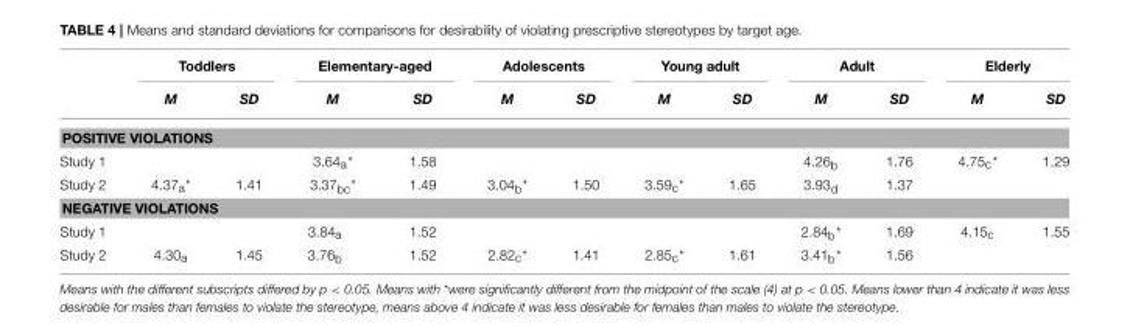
<table><thead><tr><td rowspan="2"></td><td colspan="2">Toddlers</td><td colspan="2">Elementary-aged</td><td colspan="2">Adolescents</td><td colspan="2">Young adult</td><td colspan="2">Adult</td><td colspan="2">Elderly</td></tr><tr><td>M</td><td>SD</td><td>M</td><td>SD</td><td>M</td><td>SD</td><td>M</td><td>SD</td><td>M</td><td>SD</td><td>M</td><td>SD</td></tr></thead><tbody><tr><td colspan="13">POSITIVE VIOLATIONS</td></tr><tr><td>Study 1</td><td></td><td></td><td>3.64<sub>a</sub>*</td><td>1.58</td><td></td><td></td><td></td><td></td><td>4.26<sub>b</sub></td><td>1.76</td><td>4.75<sub>c</sub>*</td><td>1.29</td></tr><tr><td>Study 2</td><td>4.37<sub>a</sub>*</td><td>1.41</td><td>3.37<sub>bc</sub>*</td><td>1.49</td><td>3.04<sub>b</sub>*</td><td>1.50</td><td>3.59<sub>c</sub>*</td><td>1.65</td><td>3.93<sub>d</sub></td><td>1.37</td><td></td><td></td></tr><tr><td colspan="13">NEGATIVE VIOLATIONS</td></tr><tr><td>Study 1</td><td></td><td></td><td>3.84<sub>a</sub></td><td>1.52</td><td></td><td></td><td></td><td></td><td>2.84<sub>b</sub>*</td><td>1.69</td><td>4.15<sub>c</sub></td><td>1.55</td></tr><tr><td>Study 2</td><td>4.30<sub>a</sub></td><td>1.45</td><td>3.76<sub>b</sub></td><td>1.52</td><td>2.82<sub>c</sub>*</td><td>1.41</td><td>2.85<sub>c</sub>*</td><td>1.61</td><td>3.41<sub>b</sub>*</td><td>1.56</td><td></td><td></td></tr></tbody></table>